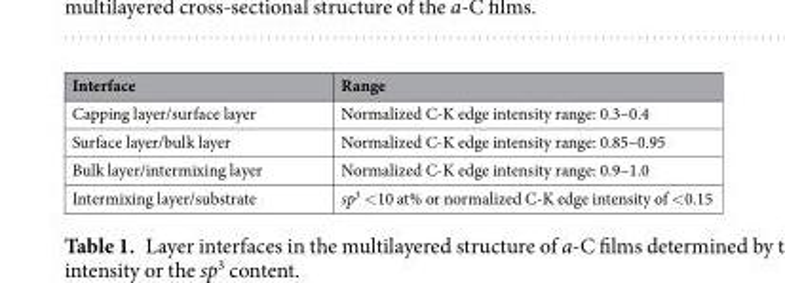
<table><thead><tr><td>Interface</td><td>Range</td></tr></thead><tbody><tr><td>Capping layer/surface layer</td><td>Normalized C-K edge intensity range: 0.3–0.4</td></tr><tr><td>Surface layer/bulk layer</td><td>Normalized C-K edge intensity range: 0.85–0.95</td></tr><tr><td>Bulk layer/intermixing layer</td><td>Normalized C-K edge intensity range: 0.9–1.0</td></tr><tr><td>Intermixing layer/substrate</td><td>sp<sup>3</sup> &lt;10 at% or normalized C-K edge intensity of &lt;0.15</td></tr></tbody></table>